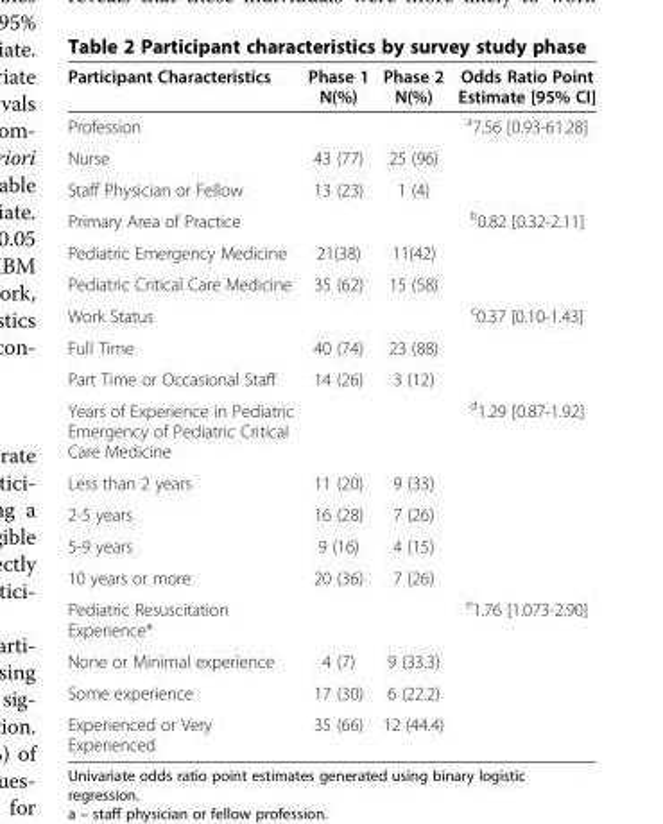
<table><thead><tr><td>Participant Characteristics</td><td>Phase 1 N(%)</td><td>Phase 2 N(%)</td><td>Odds Ratio Point Estimate [95% CI]</td></tr></thead><tbody><tr><td>Profession</td><td></td><td></td><td><sup>a</sup>7.56 [0.93-61.28]</td></tr><tr><td>Nurse</td><td>43 (77)</td><td>25 (96)</td><td></td></tr><tr><td>Staff Physician or Fellow</td><td>13 (23)</td><td>1 (4)</td><td></td></tr><tr><td>Primary Area of Practice</td><td></td><td></td><td><sup>b</sup>0.82 [0.32-2.11]</td></tr><tr><td>Pediatric Emergency Medicine</td><td>21(38)</td><td>11(42)</td><td></td></tr><tr><td>Pediatric Critical Care Medicine</td><td>35 (62)</td><td>15 (58)</td><td></td></tr><tr><td>Work Status</td><td></td><td></td><td><sup>c</sup>0.37 [0.10-1.43]</td></tr><tr><td>Full Time</td><td>40 (74)</td><td>23 (88)</td><td></td></tr><tr><td>Part Time or Occasional Staff</td><td>14 (26)</td><td>3 (12)</td><td></td></tr><tr><td>Years of Experience in Pediatric Emergency of Pediatric Critical Care Medicine</td><td></td><td></td><td><sup>d</sup>1.29 [0.87-1.92]</td></tr><tr><td>Less than 2 years</td><td>11 (20)</td><td>9 (33)</td><td></td></tr><tr><td>2-5 years</td><td>16 (28)</td><td>7 (26)</td><td></td></tr><tr><td>5-9 years</td><td>9 (16)</td><td>4 (15)</td><td></td></tr><tr><td>10 years or more</td><td>20 (36)</td><td>7 (26)</td><td></td></tr><tr><td>Pediatric Resuscitation Experience*</td><td></td><td></td><td><sup>e</sup>1.76 [1.073-2.90]</td></tr><tr><td>None or Minimal experience</td><td>4 (7)</td><td>9 (33.3)</td><td></td></tr><tr><td>Some experience</td><td>17 (30)</td><td>6 (22.2)</td><td></td></tr><tr><td>Experienced or Very Experienced</td><td>35 (66)</td><td>12 (44.4)</td><td></td></tr></tbody></table>